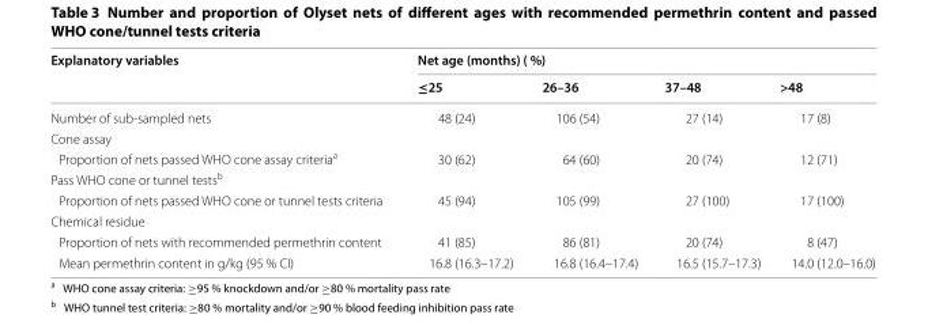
<table><thead><tr><td rowspan="2">Explanatory variables</td><td colspan="4">Net age (months) ( %)</td></tr><tr><td>≤25</td><td>26–36</td><td>37–48</td><td>&gt;48</td></tr></thead><tbody><tr><td>Number of sub-sampled nets</td><td>48 (24)</td><td>106 (54)</td><td>27 (14)</td><td>17 (8)</td></tr><tr><td colspan="5">Cone assay</td></tr><tr><td>Proportion of nets passed WHO cone assay criteria<sup>a</sup></td><td>30 (62)</td><td>64 (60)</td><td>20 (74)</td><td>12 (71)</td></tr><tr><td colspan="5">Pass WHO cone or tunnel tests<sup>b</sup></td></tr><tr><td>Proportion of nets passed WHO cone or tunnel tests criteria</td><td>45 (94)</td><td>105 (99)</td><td>27 (100)</td><td>17 (100)</td></tr><tr><td colspan="5">Chemical residue</td></tr><tr><td>Proportion of nets with recommended permethrin content</td><td>41 (85)</td><td>86 (81)</td><td>20 (74)</td><td>8 (47)</td></tr><tr><td>Mean permethrin content in g/kg (95 % CI)</td><td>16.8 (16.3–17.2)</td><td>16.8 (16.4–17.4)</td><td>16.5 (15.7–17.3)</td><td>14.0 (12.0–16.0)</td></tr></tbody></table>